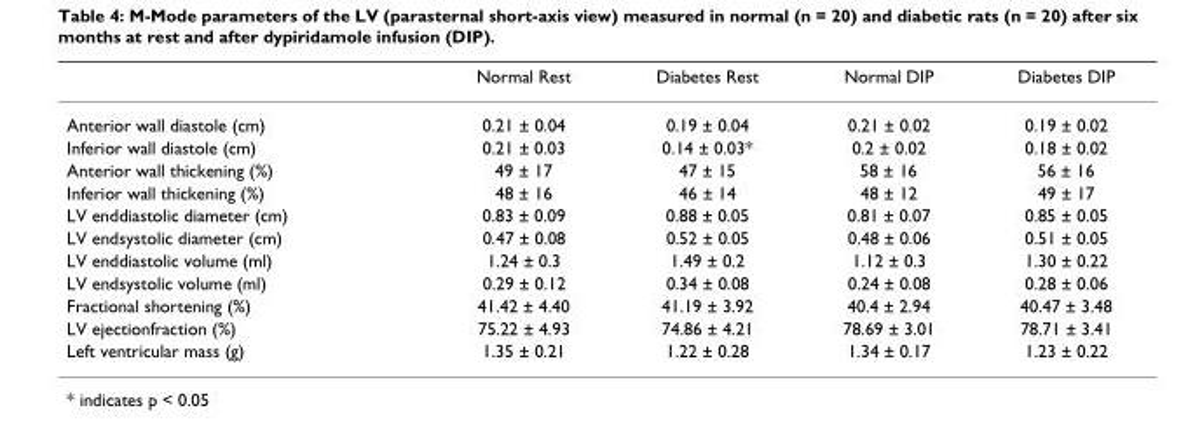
<table><thead><tr><td></td><td>Normal Rest</td><td>Diabetes Rest</td><td>Normal DIP</td><td>Diabetes DIP</td></tr></thead><tbody><tr><td>Anterior wall diastole (cm)</td><td>0.21 ± 0.04</td><td>0.19 ± 0.04</td><td>0.21 ± 0.02</td><td>0.19 ± 0.02</td></tr><tr><td>Inferior wall diastole (cm)</td><td>0.21 ± 0.03</td><td>0.14 ± 0.03*</td><td>0.2 ± 0.02</td><td>0.18 ± 0.02</td></tr><tr><td>Anterior wall thickening (%)</td><td>49 ± 17</td><td>47 ± 15</td><td>58 ± 16</td><td>56 ± 16</td></tr><tr><td>Inferior wall thickening (%)</td><td>48 ± 16</td><td>46 ± 14</td><td>48 ± 12</td><td>49 ± 17</td></tr><tr><td>LV enddiastolic diameter (cm)</td><td>0.83 ± 0.09</td><td>0.88 ± 0.05</td><td>0.81 ± 0.07</td><td>0.85 ± 0.05</td></tr><tr><td>LV endsystolic diameter (cm)</td><td>0.47 ± 0.08</td><td>0.52 ± 0.05</td><td>0.48 ± 0.06</td><td>0.51 ± 0.05</td></tr><tr><td>LV enddiastolic volume (ml)</td><td>1.24 ± 0.3</td><td>1.49 ± 0.2</td><td>1.12 ± 0.3</td><td>1.30 ± 0.22</td></tr><tr><td>LV endsystolic volume (ml)</td><td>0.29 ± 0.12</td><td>0.34 ± 0.08</td><td>0.24 ± 0.08</td><td>0.28 ± 0.06</td></tr><tr><td>Fractional shortening (%)</td><td>41.42 ± 4.40</td><td>41.19 ± 3.92</td><td>40.4 ± 2.94</td><td>40.47 ± 3.48</td></tr><tr><td>LV ejectionfraction (%)</td><td>75.22 ± 4.93</td><td>74.86 ± 4.21</td><td>78.69 ± 3.01</td><td>78.71 ± 3.41</td></tr><tr><td>Left ventricular mass (g)</td><td>1.35 ± 0.21</td><td>1.22 ± 0.28</td><td>1.34 ± 0.17</td><td>1.23 ± 0.22</td></tr></tbody></table>